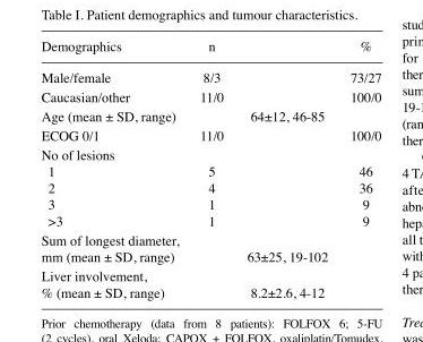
<table><thead><tr><td>Demographics</td><td>n</td><td></td><td>%</td></tr></thead><tbody><tr><td>Male/female</td><td>8/3</td><td></td><td>73/27</td></tr><tr><td>Caucasian/other</td><td>11/0</td><td></td><td>100/0</td></tr><tr><td>Age (mean ± SD, range)</td><td></td><td>64±12, 46-85</td><td></td></tr><tr><td>ECOG 0/1</td><td>11/0</td><td></td><td>100/0</td></tr><tr><td colspan="4">No of lesions</td></tr><tr><td>1</td><td>5</td><td></td><td>46</td></tr><tr><td>2</td><td>4</td><td></td><td>36</td></tr><tr><td>3</td><td>1</td><td></td><td>9</td></tr><tr><td>&gt;3</td><td>1</td><td></td><td>9</td></tr><tr><td>Sum of longest diameter, mm (mean ± SD, range)</td><td></td><td>63±25, 19-102</td><td></td></tr><tr><td>Liver involvement, % (mean ± SD, range)</td><td></td><td>8.2±2.6, 4-12</td><td></td></tr></tbody></table>